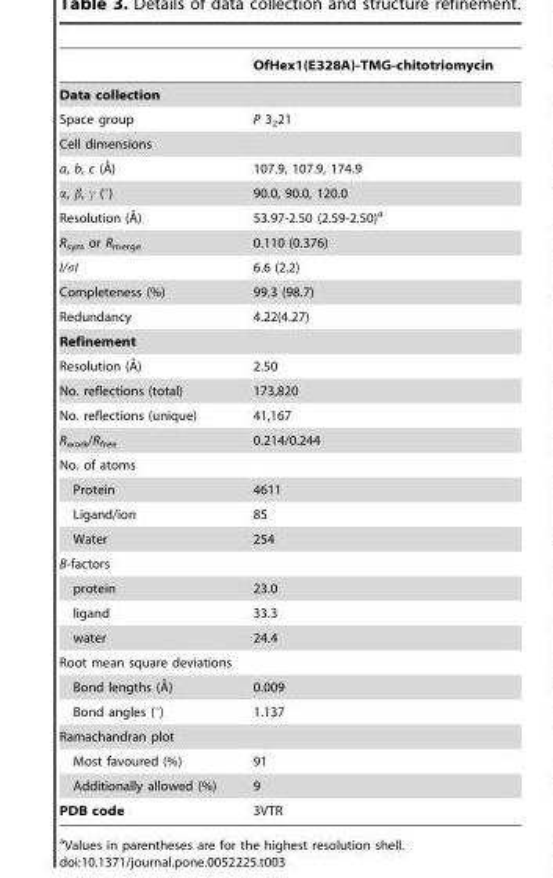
<table><thead><tr><td></td><td>OfHex1(E328A)-TMG-chitotriomycin</td></tr></thead><tbody><tr><td colspan="2">Data collection</td></tr><tr><td>Space group</td><td>P 3<sub>2</sub>21</td></tr><tr><td colspan="2">Cell dimensions</td></tr><tr><td>a, b, c (A˚)</td><td>107.9, 107.9, 174.9</td></tr><tr><td>α, β, γ (°)</td><td>90.0, 90.0, 120.0</td></tr><tr><td>Resolution (A˚)</td><td>53.97-2.50 (2.59-2.50)<sup>a</sup></td></tr><tr><td>R<sub>sym</sub> or R<sub>merge</sub></td><td>0.110 (0.376)</td></tr><tr><td>I/σI</td><td>6.6 (2.2)</td></tr><tr><td>Completeness (%)</td><td>99.3 (98.7)</td></tr><tr><td>Redundancy</td><td>4.22(4.27)</td></tr><tr><td colspan="2">Refinement</td></tr><tr><td>Resolution (A˚)</td><td>2.50</td></tr><tr><td>No. reflections (total)</td><td>173,820</td></tr><tr><td>No. reflections (unique)</td><td>41,167</td></tr><tr><td>R<sub>work</sub>/R<sub>free</sub></td><td>0.214/0.244</td></tr><tr><td colspan="2">No. of atoms</td></tr><tr><td>Protein</td><td>4611</td></tr><tr><td>Ligand/ion</td><td>85</td></tr><tr><td>Water</td><td>254</td></tr><tr><td colspan="2">B-factors</td></tr><tr><td>protein</td><td>23.0</td></tr><tr><td>ligand</td><td>33.3</td></tr><tr><td>water</td><td>24.4</td></tr><tr><td colspan="2">Root mean square deviations</td></tr><tr><td>Bond lengths (A˚)</td><td>0.009</td></tr><tr><td>Bond angles (°)</td><td>1.137</td></tr><tr><td colspan="2">Ramachandran plot</td></tr><tr><td>Most favoured (%)</td><td>91</td></tr><tr><td>Additionally allowed (%)</td><td>9</td></tr><tr><td>PDB code</td><td>3VTR</td></tr></tbody></table>